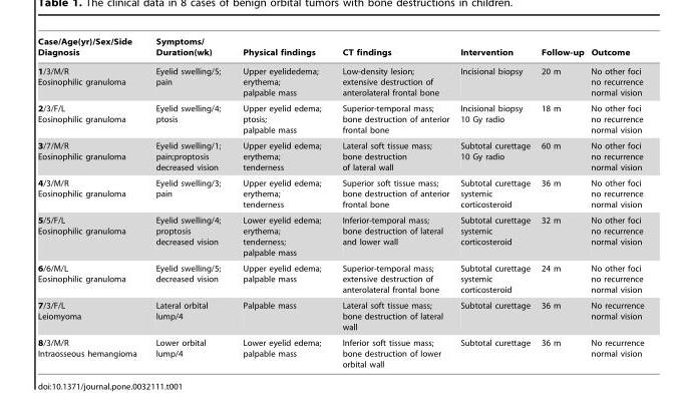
<table><thead><tr><td>Case/Age(yr)/Sex/Side Diagnosis</td><td>Symptoms/ Duration(wk)</td><td>Physical findings</td><td>CT findings</td><td>Intervention</td><td>Follow-up</td><td>Outcome</td></tr></thead><tbody><tr><td>1/3/M/R Eosinophilic granuloma</td><td>Eyelid swelling/5; pain</td><td>Upper eyelidedema; erythema; palpable mass</td><td>Low-density lesion; extensive destruction of anterolateral frontal bone</td><td>Incisional biopsy</td><td>20 m</td><td>No other foci no recurrence normal vision</td></tr><tr><td>2/3/F/L Eosinophilic granuloma</td><td>Eyelid swelling/4; ptosis</td><td>Upper eyelid edema; ptosis; palpable mass</td><td>Superior-temporal mass; bone destruction of anterior frontal bone</td><td>Incisional biopsy 10 Gy radio</td><td>18 m</td><td>No other foci no recurrence normal vision</td></tr><tr><td>3/7/M/R Eosinophilic granuloma</td><td>Eyelid swelling/1; pain;proptosis decreased vision</td><td>Upper eyelid edema; erythema; tenderness</td><td>Lateral soft tissue mass; bone destruction of lateral wall</td><td>Subtotal curettage 10 Gy radio</td><td>60 m</td><td>No other foci no recurrence normal vision</td></tr><tr><td>4/3/M/R Eosinophilic granuloma</td><td>Eyelid swelling/3; pain</td><td>Upper eyelid edema; erythema; tenderness</td><td>Superior soft tissue mass; bone destruction of anterior frontal bone</td><td>Subtotal curettage systemic corticosteroid</td><td>36 m</td><td>No other foci no recurrence normal vision</td></tr><tr><td>5/5/F/L Eosinophilic granuloma</td><td>Eyelid swelling/4; proptosis decreased vision</td><td>Lower eyelid edema; erythema; tenderness; palpable mass</td><td>Inferior-temporal mass; bone destruction of lateral and lower wall</td><td>Subtotal curettage systemic corticosteroid</td><td>32 m</td><td>No other foci no recurrence normal vision</td></tr><tr><td>6/6/M/L Eosinophilic granuloma</td><td>Eyelid swelling/5; decreased vision</td><td>Upper eyelid edema; palpable mass</td><td>Superior-temporal mass; extensive destruction of anterolateral frontal bone</td><td>Subtotal curettage systemic corticosteroid</td><td>24 m</td><td>No other foci no recurrence normal vision</td></tr><tr><td>7/3/F/L Leiomyoma</td><td>Lateral orbital lump/4</td><td>Palpable mass</td><td>Lateral soft tissue mass; bone destruction of lateral wall</td><td>Subtotal curettage</td><td>36 m</td><td>No recurrence normal vision</td></tr><tr><td>8/3/M/R Intraosseous hemangioma</td><td>Lower orbital lump/4</td><td>Lower eyelid edema; palpable mass</td><td>Inferior soft tissue mass; bone destruction of lower orbital wall</td><td>Subtotal curettage</td><td>36 m</td><td>No recurrence normal vision</td></tr></tbody></table>